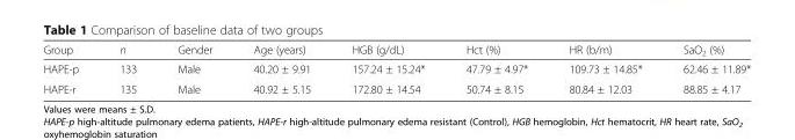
<table><thead><tr><td>Group</td><td>n</td><td>Gender</td><td>Age (years)</td><td>HGB (g/dL)</td><td>Hct (%)</td><td>HR (b/m)</td><td>SaO<sub>2</sub> (%)</td></tr></thead><tbody><tr><td>HAPE-p</td><td>133</td><td>Male</td><td>40.20 ± 9.91</td><td>157.24 ± 15.24*</td><td>47.79 ± 4.97*</td><td>109.73 ± 14.85*</td><td>62.46 ± 11.89*</td></tr><tr><td>HAPE-r</td><td>135</td><td>Male</td><td>40.92 ± 5.15</td><td>172.80 ± 14.54</td><td>50.74 ± 8.15</td><td>80.84 ± 12.03</td><td>88.85 ± 4.17</td></tr></tbody></table>